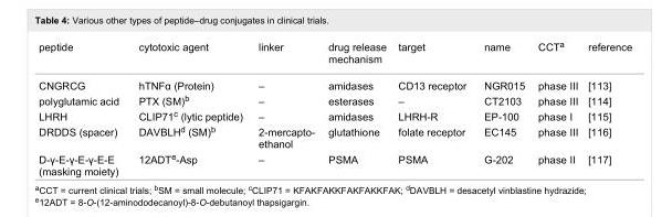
<table><tbody><tr><td>peptide</td><td>cytotoxic agent</td><td>linker</td><td>drug release mechanism</td><td>target</td><td>name</td><td>CCT<sup>a</sup></td><td>reference</td></tr><tr><td>CNGRCG</td><td>hTNFα (Protein)</td><td>–</td><td>amidases</td><td>CD13 receptor</td><td>NGR015</td><td>phase III</td><td>[113]</td></tr><tr><td>polyglutamic acid</td><td>PTX (SM)<sup>b</sup></td><td>–</td><td>esterases</td><td>–</td><td>CT2103</td><td>phase III</td><td>[114]</td></tr><tr><td>LHRH</td><td>CLIP71<sup>c</sup> (lytic peptide)</td><td>–</td><td>amidases</td><td>LHRH-R</td><td>EP-100</td><td>phase I</td><td>[115]</td></tr><tr><td>DRDDS (spacer)</td><td>DAVBLH<sup>d</sup> (SM)<sup>b</sup></td><td>2-mercapto- ethanol</td><td>glutathione</td><td>folate receptor</td><td>EC145</td><td>phase III</td><td>[116]</td></tr><tr><td>D-γ-E-γ-E-γ-E-E (masking moiety)</td><td>12ADT<sup>e</sup>-Asp</td><td>–</td><td>PSMA</td><td>PSMA</td><td>G-202</td><td>phase II</td><td>[117]</td></tr></tbody></table>